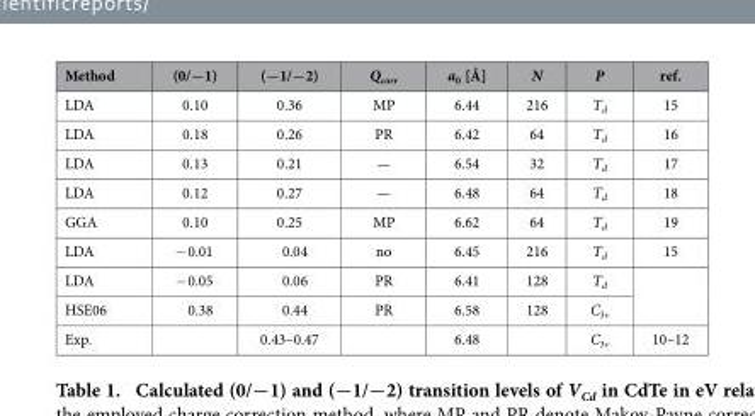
<table><thead><tr><td>Method</td><td>(0/−1)</td><td>(−1/−2)</td><td>Q<sub>corr</sub></td><td>a<sub>0</sub> [Å]</td><td>N</td><td>P</td><td>ref.</td></tr></thead><tbody><tr><td>LDA</td><td>0.10</td><td>0.36</td><td>MP</td><td>6.44</td><td>216</td><td>T<sub>d</sub></td><td>15</td></tr><tr><td>LDA</td><td>0.18</td><td>0.26</td><td>PR</td><td>6.42</td><td>64</td><td>T<sub>d</sub></td><td>16</td></tr><tr><td>LDA</td><td>0.13</td><td>0.21</td><td>—</td><td>6.54</td><td>32</td><td>T<sub>d</sub></td><td>17</td></tr><tr><td>LDA</td><td>0.12</td><td>0.27</td><td>—</td><td>6.48</td><td>64</td><td>T<sub>d</sub></td><td>18</td></tr><tr><td>GGA</td><td>0.10</td><td>0.25</td><td>MP</td><td>6.62</td><td>64</td><td>T<sub>d</sub></td><td>19</td></tr><tr><td>LDA</td><td>− 0.01</td><td>0.04</td><td>no</td><td>6.45</td><td>216</td><td>T<sub>d</sub></td><td>15</td></tr><tr><td>LDA</td><td>− 0.05</td><td>0.06</td><td>PR</td><td>6.41</td><td>128</td><td>T<sub>d</sub></td><td rowspan="2"></td></tr><tr><td>HSE06</td><td>0.38</td><td>0.44</td><td>PR</td><td>6.58</td><td>128</td><td>C<sub>3v</sub></td></tr><tr><td>Exp.</td><td></td><td>0.43–0.47</td><td></td><td>6.48</td><td></td><td>C<sub>3v</sub></td><td>10–12</td></tr></tbody></table>